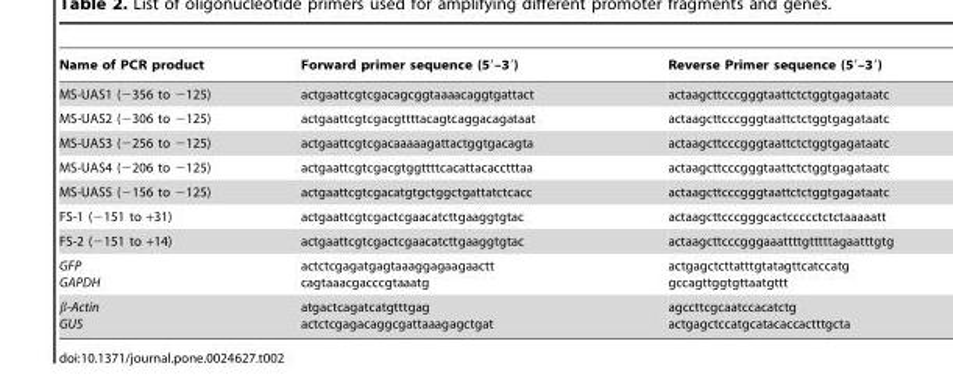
<table><thead><tr><td>Name of PCR product</td><td>Forward primer sequence (5′–3′)</td><td>Reverse Primer sequence (5′–3′)</td></tr></thead><tbody><tr><td>MS-UAS1 (−356 to −125)</td><td>actgaattcgtcgacagcggtaaaacaggtgattact</td><td>actaagcttcccgggtaattctctggtgagataatc</td></tr><tr><td>MS-UAS2 (−306 to −125)</td><td>actgaattcgtcgacgttttacagtcaggacagataat</td><td>actaagcttcccgggtaattctctggtgagataatc</td></tr><tr><td>MS-UAS3 (−256 to −125)</td><td>actgaattcgtcgacaaaaagattactggtgacagta</td><td>actaagcttcccgggtaattctctggtgagataatc</td></tr><tr><td>MS-UAS4 (−206 to −125)</td><td>actgaattcgtcgacgtggttttcacattacacctttaa</td><td>actaagcttcccgggtaattctctggtgagataatc</td></tr><tr><td>MS-UAS5 (−156 to −125)</td><td>actgaattcgtcgacatgtgctggctgattatctcacc</td><td>actaagcttcccgggtaattctctggtgagataatc</td></tr><tr><td>FS-1 (−151 to +31)</td><td>actgaattcgtcgactcgaacatcttgaaggtgtac</td><td>actaagcttcccgggcactccccctctctaaaaatt</td></tr><tr><td>FS-2 (−151 to +14)</td><td>actgaattcgtcgactcgaacatcttgaaggtgtac</td><td>actaagcttcccgggaaattttgtttttagaatttgtg</td></tr><tr><td>GFP GAPDH</td><td>actctcgagatgagtaaaggagaagaactt cagtaaacgacccgtaaatg</td><td>actgagctcttatttgtatagttcatccatg gccagttggtgttaatgttt</td></tr><tr><td>β-Actin GUS</td><td>atgactcagatcatgtttgag actctcgagacaggcgattaaagagctgat</td><td>agccttcgcaatccacatctg actgagctccatgcatacaccactttgcta</td></tr></tbody></table>